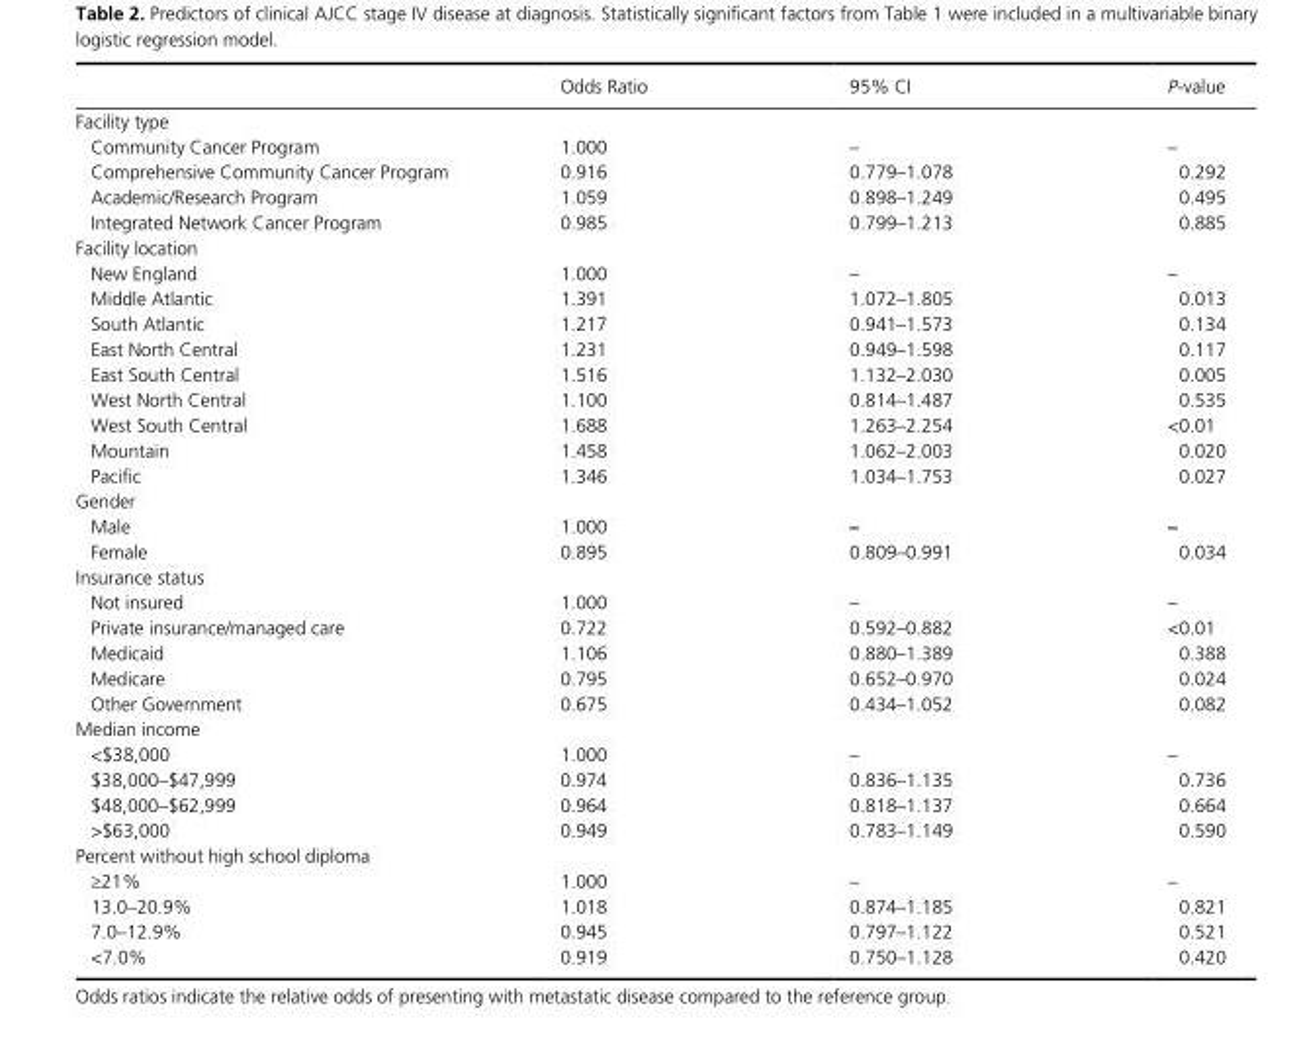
<table><thead><tr><td></td><td>Odds Ratio</td><td>95% CI</td><td>P-value</td></tr></thead><tbody><tr><td colspan="4">Facility type</td></tr><tr><td>Community Cancer Program</td><td>1.000</td><td>–</td><td>–</td></tr><tr><td>Comprehensive Community Cancer Program</td><td>0.916</td><td>0.779–1.078</td><td>0.292</td></tr><tr><td>Academic/Research Program</td><td>1.059</td><td>0.898–1.249</td><td>0.495</td></tr><tr><td>Integrated Network Cancer Program</td><td>0.985</td><td>0.799–1.213</td><td>0.885</td></tr><tr><td colspan="4">Facility location</td></tr><tr><td>New England</td><td>1.000</td><td>–</td><td>–</td></tr><tr><td>Middle Atlantic</td><td>1.391</td><td>1.072–1.805</td><td>0.013</td></tr><tr><td>South Atlantic</td><td>1.217</td><td>0.941–1.573</td><td>0.134</td></tr><tr><td>East North Central</td><td>1.231</td><td>0.949–1.598</td><td>0.117</td></tr><tr><td>East South Central</td><td>1.516</td><td>1.132–2.030</td><td>0.005</td></tr><tr><td>West North Central</td><td>1.100</td><td>0.814–1.487</td><td>0.535</td></tr><tr><td>West South Central</td><td>1.688</td><td>1.263–2.254</td><td>&lt;0.01</td></tr><tr><td>Mountain</td><td>1.458</td><td>1.062–2.003</td><td>0.020</td></tr><tr><td>Pacific</td><td>1.346</td><td>1.034–1.753</td><td>0.027</td></tr><tr><td colspan="4">Gender</td></tr><tr><td>Male</td><td>1.000</td><td>–</td><td>–</td></tr><tr><td>Female</td><td>0.895</td><td>0.809–0.991</td><td>0.034</td></tr><tr><td colspan="4">Insurance status</td></tr><tr><td>Not insured</td><td>1.000</td><td>–</td><td>–</td></tr><tr><td>Private insurance/managed care</td><td>0.722</td><td>0.592–0.882</td><td>&lt;0.01</td></tr><tr><td>Medicaid</td><td>1.106</td><td>0.880–1.389</td><td>0.388</td></tr><tr><td>Medicare</td><td>0.795</td><td>0.652–0.970</td><td>0.024</td></tr><tr><td>Other Government</td><td>0.675</td><td>0.434–1.052</td><td>0.082</td></tr><tr><td colspan="4">Median income</td></tr><tr><td>&lt;$38,000</td><td>1.000</td><td>–</td><td>–</td></tr><tr><td>$38,000–$47,999</td><td>0.974</td><td>0.836–1.135</td><td>0.736</td></tr><tr><td>$48,000–$62,999</td><td>0.964</td><td>0.818–1.137</td><td>0.664</td></tr><tr><td>&gt;$63,000</td><td>0.949</td><td>0.783–1.149</td><td>0.590</td></tr><tr><td colspan="4">Percent without high school diploma</td></tr><tr><td>≥21%</td><td>1.000</td><td>–</td><td>–</td></tr><tr><td>13.0–20.9%</td><td>1.018</td><td>0.874–1.185</td><td>0.821</td></tr><tr><td>7.0–12.9%</td><td>0.945</td><td>0.797–1.122</td><td>0.521</td></tr><tr><td>&lt;7.0%</td><td>0.919</td><td>0.750–1.128</td><td>0.420</td></tr></tbody></table>